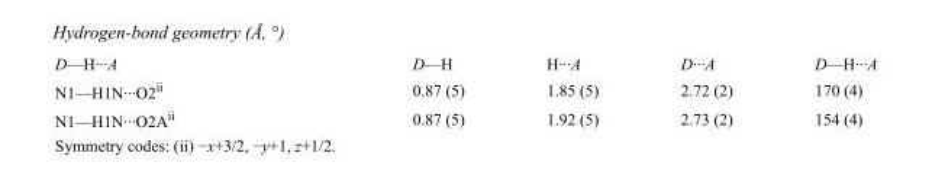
<table><tbody><tr><td>D—H···A</td><td>D—H</td><td>H···A</td><td>D···A</td><td>D—H···A</td></tr><tr><td>N1—H1N···O2<sup>ii</sup></td><td>0.87 (5)</td><td>1.85 (5)</td><td>2.72 (2)</td><td>170 (4)</td></tr><tr><td>N1—H1N···O2A<sup>ii</sup></td><td>0.87 (5)</td><td>1.92 (5)</td><td>2.73 (2)</td><td>154 (4)</td></tr></tbody></table>